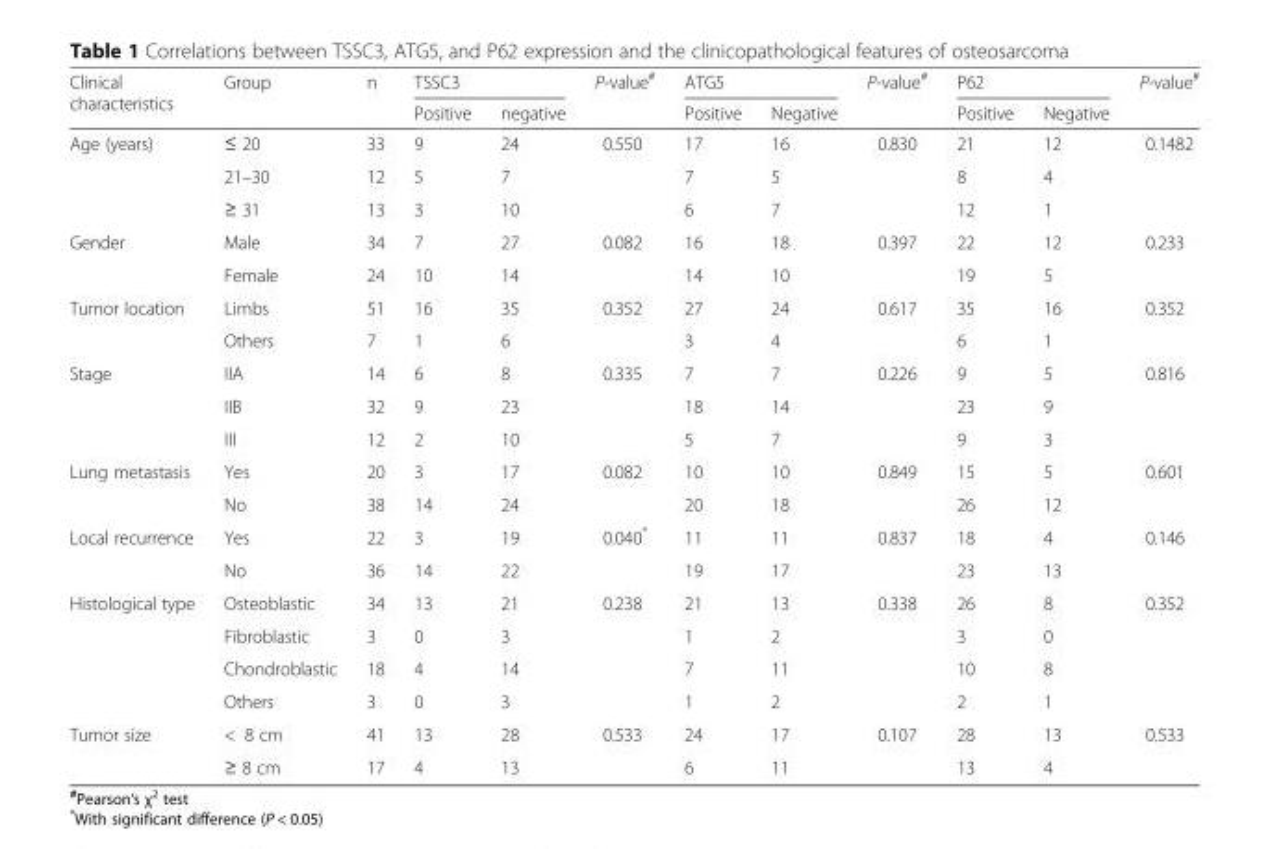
<table><thead><tr><td rowspan="2">Clinical characteristics</td><td rowspan="2">Group</td><td rowspan="2">n</td><td colspan="2">TSSC3</td><td rowspan="2">P-value<sup>#</sup></td><td colspan="2">ATG5</td><td rowspan="2">P-value<sup>#</sup></td><td colspan="2">P62</td><td rowspan="2">P-value<sup>#</sup></td></tr><tr><td>Positive</td><td>negative</td><td>Positive</td><td>Negative</td><td>Positive</td><td>Negative</td></tr></thead><tbody><tr><td rowspan="3">Age (years)</td><td>≤ 20</td><td>33</td><td>9</td><td>24</td><td>0.550</td><td>17</td><td>16</td><td>0.830</td><td>21</td><td>12</td><td>0.1482</td></tr><tr><td>21–30</td><td>12</td><td>5</td><td>7</td><td></td><td>7</td><td>5</td><td></td><td>8</td><td>4</td><td></td></tr><tr><td>≥ 31</td><td>13</td><td>3</td><td>10</td><td></td><td>6</td><td>7</td><td></td><td>12</td><td>1</td><td></td></tr><tr><td rowspan="2">Gender</td><td>Male</td><td>34</td><td>7</td><td>27</td><td>0.082</td><td>16</td><td>18</td><td>0.397</td><td>22</td><td>12</td><td>0.233</td></tr><tr><td>Female</td><td>24</td><td>10</td><td>14</td><td></td><td>14</td><td>10</td><td></td><td>19</td><td>5</td><td></td></tr><tr><td rowspan="2">Tumor location</td><td>Limbs</td><td>51</td><td>16</td><td>35</td><td>0.352</td><td>27</td><td>24</td><td>0.617</td><td>35</td><td>16</td><td>0.352</td></tr><tr><td>Others</td><td>7</td><td>1</td><td>6</td><td></td><td>3</td><td>4</td><td></td><td>6</td><td>1</td><td></td></tr><tr><td rowspan="3">Stage</td><td>IIA</td><td>14</td><td>6</td><td>8</td><td>0.335</td><td>7</td><td>7</td><td>0.226</td><td>9</td><td>5</td><td>0.816</td></tr><tr><td>IIB</td><td>32</td><td>9</td><td>23</td><td></td><td>18</td><td>14</td><td></td><td>23</td><td>9</td><td></td></tr><tr><td>III</td><td>12</td><td>2</td><td>10</td><td></td><td>5</td><td>7</td><td></td><td>9</td><td>3</td><td></td></tr><tr><td rowspan="2">Lung metastasis</td><td>Yes</td><td>20</td><td>3</td><td>17</td><td>0.082</td><td>10</td><td>10</td><td>0.849</td><td>15</td><td>5</td><td>0.601</td></tr><tr><td>No</td><td>38</td><td>14</td><td>24</td><td></td><td>20</td><td>18</td><td></td><td>26</td><td>12</td><td></td></tr><tr><td rowspan="2">Local recurrence</td><td>Yes</td><td>22</td><td>3</td><td>19</td><td>0.040*</td><td>11</td><td>11</td><td>0.837</td><td>18</td><td>4</td><td>0.146</td></tr><tr><td>No</td><td>36</td><td>14</td><td>22</td><td></td><td>19</td><td>17</td><td></td><td>23</td><td>13</td><td></td></tr><tr><td rowspan="4">Histological type</td><td>Osteoblastic</td><td>34</td><td>13</td><td>21</td><td>0.238</td><td>21</td><td>13</td><td>0.338</td><td>26</td><td>8</td><td>0.352</td></tr><tr><td>Fibroblastic</td><td>3</td><td>0</td><td>3</td><td></td><td>1</td><td>2</td><td></td><td>3</td><td>0</td><td></td></tr><tr><td>Chondroblastic</td><td>18</td><td>4</td><td>14</td><td></td><td>7</td><td>11</td><td></td><td>10</td><td>8</td><td></td></tr><tr><td>Others</td><td>3</td><td>0</td><td>3</td><td></td><td>1</td><td>2</td><td></td><td>2</td><td>1</td><td></td></tr><tr><td rowspan="2">Tumor size</td><td>&lt; 8 cm</td><td>41</td><td>13</td><td>28</td><td>0.533</td><td>24</td><td>17</td><td>0.107</td><td>28</td><td>13</td><td>0.533</td></tr><tr><td>≥ 8 cm</td><td>17</td><td>4</td><td>13</td><td></td><td>6</td><td>11</td><td></td><td>13</td><td>4</td><td></td></tr></tbody></table>